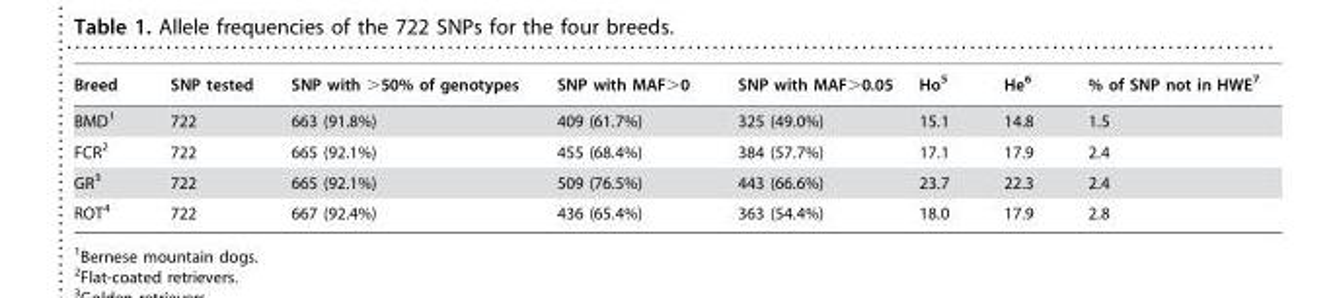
<table><thead><tr><td>Breed</td><td>SNP tested</td><td>SNP with &gt;50% of genotypes</td><td>SNP with MAF&gt;0</td><td>SNP with MAF&gt;0.05</td><td>Ho<sup>5</sup></td><td>He<sup>6</sup></td><td>% of SNP not in HWE<sup>7</sup></td></tr></thead><tbody><tr><td>BMD<sup>1</sup></td><td>722</td><td>663 (91.8%)</td><td>409 (61.7%)</td><td>325 (49.0%)</td><td>15.1</td><td>14.8</td><td>1.5</td></tr><tr><td>FCR<sup>2</sup></td><td>722</td><td>665 (92.1%)</td><td>455 (68.4%)</td><td>384 (57.7%)</td><td>17.1</td><td>17.9</td><td>2.4</td></tr><tr><td>GR<sup>3</sup></td><td>722</td><td>665 (92.1%)</td><td>509 (76.5%)</td><td>443 (66.6%)</td><td>23.7</td><td>22.3</td><td>2.4</td></tr><tr><td>ROT<sup>4</sup></td><td>722</td><td>667 (92.4%)</td><td>436 (65.4%)</td><td>363 (54.4%)</td><td>18.0</td><td>17.9</td><td>2.8</td></tr></tbody></table>